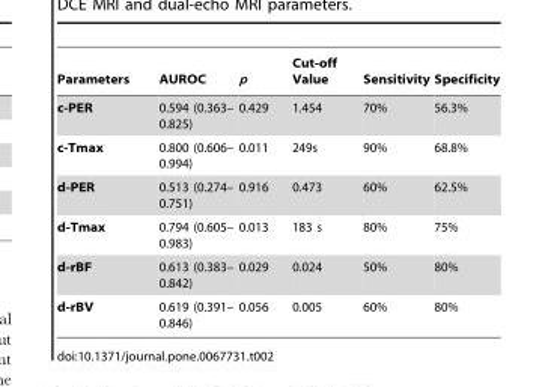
<table><thead><tr><td>Parameters</td><td>AUROC</td><td>p</td><td>Cut-off Value</td><td>Sensitivity</td><td>Specificity</td></tr></thead><tbody><tr><td>c-PER</td><td>0.594 (0.363– 0.825)</td><td>0.429</td><td>1.454</td><td>70%</td><td>56.3%</td></tr><tr><td>c-Tmax</td><td>0.800 (0.606– 0.994)</td><td>0.011</td><td>249s</td><td>90%</td><td>68.8%</td></tr><tr><td>d-PER</td><td>0.513 (0.274– 0.751)</td><td>0.916</td><td>0.473</td><td>60%</td><td>62.5%</td></tr><tr><td>d-Tmax</td><td>0.794 (0.605– 0.983)</td><td>0.013</td><td>183 s</td><td>80%</td><td>75%</td></tr><tr><td>d-rBF</td><td>0.613 (0.383– 0.842)</td><td>0.029</td><td>0.024</td><td>50%</td><td>80%</td></tr><tr><td>d-rBV</td><td>0.619 (0.391– 0.846)</td><td>0.056</td><td>0.005</td><td>60%</td><td>80%</td></tr></tbody></table>